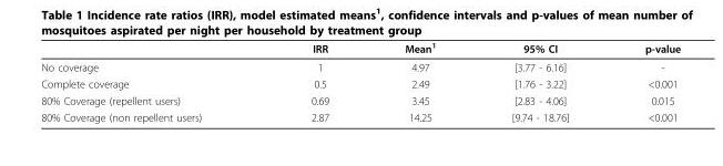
<table><thead><tr><td></td><td>IRR</td><td>Mean<sup>1</sup></td><td>95% CI</td><td>p-value</td></tr></thead><tbody><tr><td>No coverage</td><td>1</td><td>4.97</td><td>[3.77 - 6.16]</td><td>-</td></tr><tr><td>Complete coverage</td><td>0.5</td><td>2.49</td><td>[1.76 - 3.22]</td><td>&lt;0.001</td></tr><tr><td>80% Coverage (repellent users)</td><td>0.69</td><td>3.45</td><td>[2.83 - 4.06]</td><td>0.015</td></tr><tr><td>80% Coverage (non repellent users)</td><td>2.87</td><td>14.25</td><td>[9.74 - 18.76]</td><td>&lt;0.001</td></tr></tbody></table>